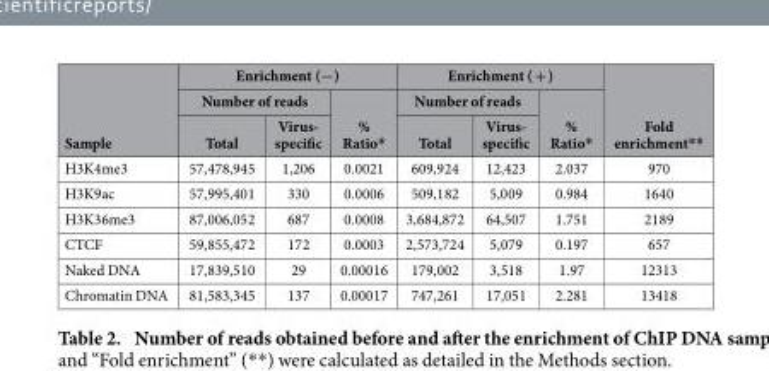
<table><thead><tr><td rowspan="3">Sample</td><td colspan="3">Enrichment (−)</td><td colspan="3">Enrichment ( + )</td><td rowspan="3">Fold enrichment**</td></tr><tr><td colspan="2">Number of reads</td><td rowspan="2">% Ratio*</td><td colspan="2">Number of reads</td><td rowspan="2">% Ratio*</td></tr><tr><td>Total</td><td>Virus- specific</td><td>Total</td><td>Virus- specific</td></tr></thead><tbody><tr><td>H3K4me3</td><td>57,478,945</td><td>1,206</td><td>0.0021</td><td>609,924</td><td>12,423</td><td>2.037</td><td>970</td></tr><tr><td>H3K9ac</td><td>57,995,401</td><td>330</td><td>0.0006</td><td>509,182</td><td>5,009</td><td>0.984</td><td>1640</td></tr><tr><td>H3K36me3</td><td>87,006,052</td><td>687</td><td>0.0008</td><td>3,684,872</td><td>64,507</td><td>1.751</td><td>2189</td></tr><tr><td>CTCF</td><td>59,855,472</td><td>172</td><td>0.0003</td><td>2,573,724</td><td>5,079</td><td>0.197</td><td>657</td></tr><tr><td>Naked DNA</td><td>17,839,510</td><td>29</td><td>0.00016</td><td>179,002</td><td>3,518</td><td>1.97</td><td>12313</td></tr><tr><td>Chromatin DNA</td><td>81,583,345</td><td>137</td><td>0.00017</td><td>747,261</td><td>17,051</td><td>2.281</td><td>13418</td></tr></tbody></table>